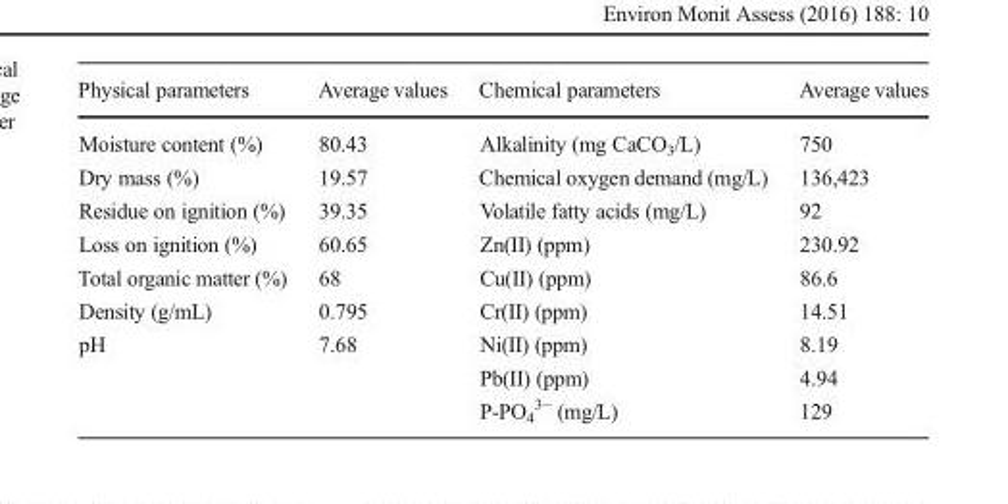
<table><thead><tr><td>Physical parameters</td><td>Average values</td><td>Chemical parameters</td><td>Average values</td></tr></thead><tbody><tr><td>Moisture content (%)</td><td>80.43</td><td>Alkalinity (mg CaCO<sub>3</sub>/L)</td><td>750</td></tr><tr><td>Dry mass (%)</td><td>19.57</td><td>Chemical oxygen demand (mg/L)</td><td>136,423</td></tr><tr><td>Residue on ignition (%)</td><td>39.35</td><td>Volatile fatty acids (mg/L)</td><td>92</td></tr><tr><td>Loss on ignition (%)</td><td>60.65</td><td>Zn(II) (ppm)</td><td>230.92</td></tr><tr><td>Total organic matter (%)</td><td>68</td><td>Cu(II) (ppm)</td><td>86.6</td></tr><tr><td>Density (g/mL)</td><td>0.795</td><td>Cr(II) (ppm)</td><td>14.51</td></tr><tr><td rowspan="3">pH</td><td>7.68</td><td>Ni(II) (ppm)</td><td>8.19</td></tr><tr><td></td><td>Pb(II) (ppm)</td><td>4.94</td></tr><tr><td></td><td>P-PO<sub>4</sub> <sup>3−</sup> (mg/L)</td><td>129</td></tr></tbody></table>